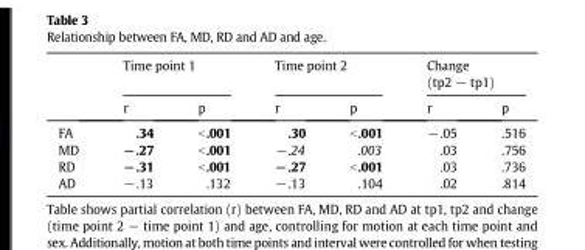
<table><thead><tr><td rowspan="2"></td><td colspan="2">Time point 1</td><td colspan="2">Time point 2</td><td colspan="2">Change (tp2 − tp1)</td></tr><tr><td>r</td><td>p</td><td>r</td><td>p</td><td>r</td><td>p</td></tr></thead><tbody><tr><td>FA</td><td>.34</td><td>&lt;.001</td><td>.30</td><td>&lt;.001</td><td>−.05</td><td>.516</td></tr><tr><td>MD</td><td>−.27</td><td>&lt;.001</td><td>−.24</td><td>.003</td><td>.03</td><td>.756</td></tr><tr><td>RD</td><td>−.31</td><td>&lt;.001</td><td>−.27</td><td>&lt;.001</td><td>.03</td><td>.736</td></tr><tr><td>AD</td><td>−.13</td><td>.132</td><td>−.13</td><td>.104</td><td>.02</td><td>.814</td></tr></tbody></table>